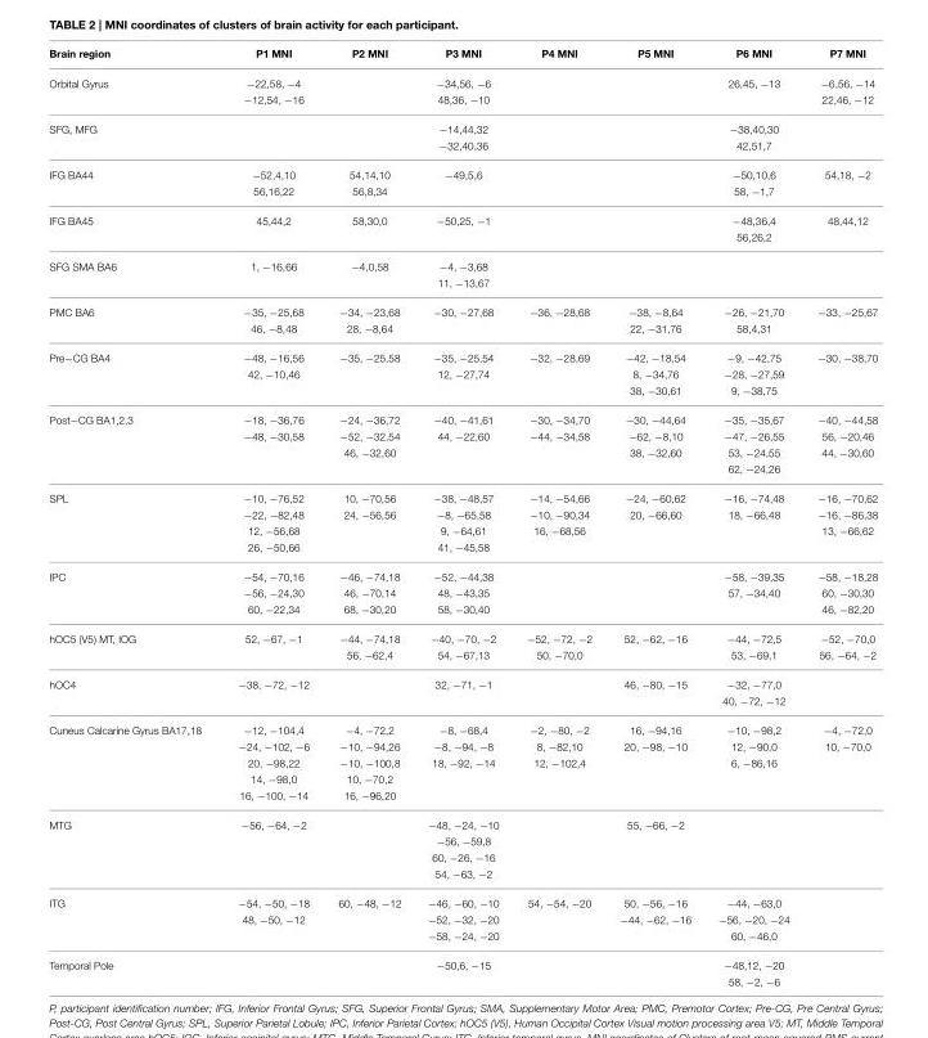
<table><thead><tr><td>Brain region</td><td>P1 MNI</td><td>P2 MNI</td><td>P3 MNI</td><td>P4 MNI</td><td>P5 MNI</td><td>P6 MNI</td><td>P7 MNI</td></tr></thead><tbody><tr><td rowspan="2">Orbital Gyrus</td><td>−22,58, −4</td><td></td><td>−34,56, −6</td><td></td><td></td><td>26,45, −13</td><td>−6,56, −14</td></tr><tr><td>−12,54, −16</td><td></td><td>48,36, −10</td><td></td><td></td><td></td><td>22,46, −12</td></tr><tr><td rowspan="2">SFG, MFG</td><td></td><td></td><td>−14,44,32</td><td></td><td></td><td>−38,40,30</td><td></td></tr><tr><td></td><td></td><td>−32,40,36</td><td></td><td></td><td>42,51,7</td><td></td></tr><tr><td rowspan="2">IFG BA44</td><td>−52,4,10</td><td>54,14,10</td><td>−49,5,6</td><td></td><td></td><td>−50,10,6</td><td>54,18, −2</td></tr><tr><td>56,16,22</td><td>56,8,34</td><td></td><td></td><td></td><td>58, −1,7</td><td></td></tr><tr><td rowspan="2">IFG BA45</td><td>45,44,2</td><td>58,30,0</td><td>−50,25, −1</td><td></td><td></td><td>−48,36,4</td><td>48,44,12</td></tr><tr><td></td><td></td><td></td><td></td><td></td><td>56,26,2</td><td></td></tr><tr><td rowspan="2">SFG SMA BA6</td><td>1, −16,66</td><td>−4,0,58</td><td>−4, −3,68</td><td></td><td></td><td></td><td></td></tr><tr><td></td><td></td><td>11, −13,67</td><td></td><td></td><td></td><td></td></tr><tr><td rowspan="2">PMC BA6</td><td>−35, −25,68</td><td>−34, −23,68</td><td>−30, −27,68</td><td>−36, −28,68</td><td>−38, −8,64</td><td>−26, −21,70</td><td>−33, −25,67</td></tr><tr><td>46, −8,48</td><td>28, −8,64</td><td></td><td></td><td>22, −31,76</td><td>58,4,31</td><td></td></tr><tr><td rowspan="3">Pre−CG BA4</td><td>−48, −16,56</td><td>−35, −25,58</td><td>−35, −25,54</td><td>−32, −28,69</td><td>−42, −18,54</td><td>−9, −42,75</td><td>−30, −38,70</td></tr><tr><td>42, −10,46</td><td></td><td>12, −27,74</td><td></td><td>8, −34,76</td><td>−28, −27,59</td><td></td></tr><tr><td></td><td></td><td></td><td></td><td>38, −30,61</td><td>9, −38,75</td><td></td></tr><tr><td rowspan="4">Post−CG BA1,2,3</td><td>−18, −36,76</td><td>−24, −36,72</td><td>−40, −41,61</td><td>−30, −34,70</td><td>−30, −44,64</td><td>−35, −35,67</td><td>−40, −44,58</td></tr><tr><td>−48, −30,58</td><td>−52, −32,54</td><td>44, −22,60</td><td>−44, −34,58</td><td>−62, −8,10</td><td>−47, −26,55</td><td>56, −20,46</td></tr><tr><td></td><td>46, −32,60</td><td></td><td></td><td>38, −32,60</td><td>53, −24,55</td><td>44, −30,60</td></tr><tr><td></td><td></td><td></td><td></td><td></td><td>62, −24,26</td><td></td></tr><tr><td rowspan="4">SPL</td><td>−10, −76,52</td><td>10, −70,56</td><td>−38, −48,57</td><td>−14, −54,66</td><td>−24, −60,62</td><td>−16, −74,48</td><td>−16, −70,62</td></tr><tr><td>−22, −82,48</td><td>24, −56,56</td><td>−8, −65,58</td><td>−10, −90,34</td><td>20, −66,60</td><td>18, −66,48</td><td>−16, −86,38</td></tr><tr><td>12, −56,68</td><td></td><td>9, −64,61</td><td>16, −68,56</td><td></td><td></td><td>13, −66,62</td></tr><tr><td>26, −50,66</td><td></td><td>41, −45,58</td><td></td><td></td><td></td><td></td></tr><tr><td rowspan="3">IPC</td><td>−54, −70,16</td><td>−46, −74,18</td><td>−52, −44,38</td><td></td><td></td><td>−58, −39,35</td><td>−58, −18,28</td></tr><tr><td>−56, −24,30</td><td>46, −70,14</td><td>48, −43,35</td><td></td><td></td><td>57, −34,40</td><td>60, −30,30</td></tr><tr><td>60, −22,34</td><td>68, −30,20</td><td>58, −30,40</td><td></td><td></td><td></td><td>46, −82,20</td></tr><tr><td rowspan="2">hOC5 (V5) MT, IOG</td><td>52, −67, −1</td><td>−44, −74,18</td><td>−40, −70, −2</td><td>−52, −72, −2</td><td>52, −62, −16</td><td>−44, −72,5</td><td>−52, −70,0</td></tr><tr><td></td><td>56, −62,4</td><td>54, −67,13</td><td>50, −70,0</td><td></td><td>53, −69,1</td><td>56, −64, −2</td></tr><tr><td rowspan="2">hOC4</td><td>−38, −72, −12</td><td></td><td>32, −71, −1</td><td></td><td>46, −80, −15</td><td>−32, −77,0</td><td></td></tr><tr><td></td><td></td><td></td><td></td><td></td><td>40, −72, −12</td><td></td></tr><tr><td rowspan="5">Cuneus Calcarine Gyrus BA17,18</td><td>−12, −104,4</td><td>−4, −72,2</td><td>−8, −68,4</td><td>−2, −80, −2</td><td>16, −94,16</td><td>−10, −98,2</td><td>−4, −72,0</td></tr><tr><td>−24, −102, −6</td><td>−10, −94,26</td><td>−8, −94, −8</td><td>8, −82,10</td><td>20, −98, −10</td><td>12, −90,0</td><td>10, −70,0</td></tr><tr><td>20, −98,22</td><td>−10, −100,8</td><td>18, −92, −14</td><td>12, −102,4</td><td></td><td>6, −86,16</td><td></td></tr><tr><td>14, −98,0</td><td>10, −70,2</td><td></td><td></td><td></td><td></td><td></td></tr><tr><td>16, −100, −14</td><td>16, −96,20</td><td></td><td></td><td></td><td></td><td></td></tr><tr><td rowspan="4">MTG</td><td>−56, −64, −2</td><td></td><td>−48, −24, −10</td><td></td><td>55, −66, −2</td><td></td><td></td></tr><tr><td></td><td></td><td>−56, −59,8</td><td></td><td></td><td></td><td></td></tr><tr><td></td><td></td><td>60, −26, −16</td><td></td><td></td><td></td><td></td></tr><tr><td></td><td></td><td>54, −63, −2</td><td></td><td></td><td></td><td></td></tr><tr><td rowspan="3">ITG</td><td>−54, −50, −18</td><td>60, −48, −12</td><td>−46, −60, −10</td><td>54, −54, −20</td><td>50, −56, −16</td><td>−44, −63,0</td><td></td></tr><tr><td>48, −50, −12</td><td></td><td>−52, −32, −20</td><td></td><td>−44, −62, −16</td><td>−56, −20, −24</td><td></td></tr><tr><td></td><td></td><td>−58, −24, −20</td><td></td><td></td><td>60, −46,0</td><td></td></tr><tr><td rowspan="2">Temporal Pole</td><td></td><td></td><td>−50,6, −15</td><td></td><td></td><td>−48,12, −20</td><td></td></tr><tr><td></td><td></td><td></td><td></td><td></td><td>58, −2, −6</td><td></td></tr></tbody></table>